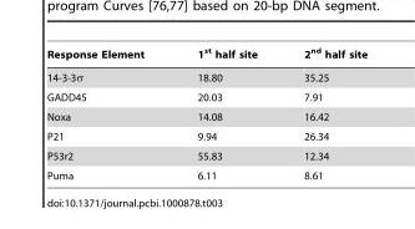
<table><thead><tr><td>Response Element</td><td>1<sup>st</sup> half site</td><td>2<sup>nd</sup> half site</td></tr></thead><tbody><tr><td>14-3-3σ</td><td>18.80</td><td>35.25</td></tr><tr><td>GADD45</td><td>20.03</td><td>7.91</td></tr><tr><td>Noxa</td><td>14.08</td><td>16.42</td></tr><tr><td>P21</td><td>9.94</td><td>26.34</td></tr><tr><td>P53r2</td><td>55.83</td><td>12.34</td></tr><tr><td>Puma</td><td>6.11</td><td>8.61</td></tr></tbody></table>